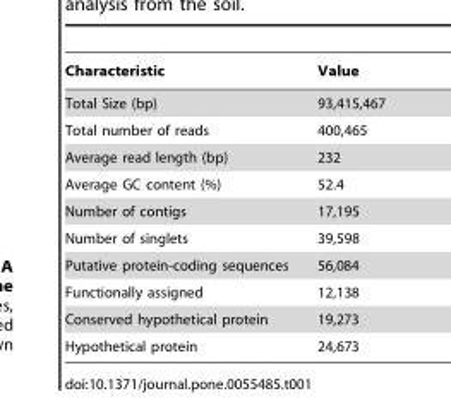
<table><thead><tr><td>Characteristic</td><td>Value</td></tr></thead><tbody><tr><td>Total Size (bp)</td><td>93,415,467</td></tr><tr><td>Total number of reads</td><td>400,465</td></tr><tr><td>Average read length (bp)</td><td>232</td></tr><tr><td>Average GC content (%)</td><td>52.4</td></tr><tr><td>Number of contigs</td><td>17,195</td></tr><tr><td>Number of singlets</td><td>39,598</td></tr><tr><td>Putative protein-coding sequences</td><td>56,084</td></tr><tr><td>Functionally assigned</td><td>12,138</td></tr><tr><td>Conserved hypothetical protein</td><td>19,273</td></tr><tr><td>Hypothetical protein</td><td>24,673</td></tr></tbody></table>